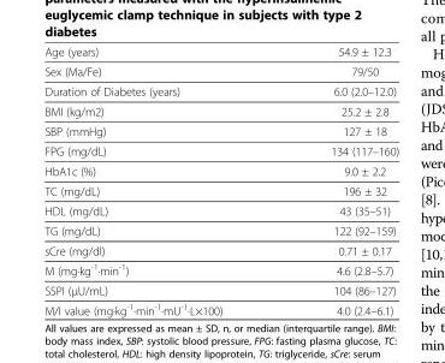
<table><thead><tr><td>Age (years)</td><td>54.9 ± 12.3</td></tr></thead><tbody><tr><td>Sex (Ma/Fe)</td><td>79/50</td></tr><tr><td>Duration of Diabetes (years)</td><td>6.0 (2.0–12.0)</td></tr><tr><td>BMI (kg/m2)</td><td>25.2 ± 2.8</td></tr><tr><td>SBP (mmHg)</td><td>127 ± 18</td></tr><tr><td>FPG (mg/dL)</td><td>134 (117–160)</td></tr><tr><td>HbA1c (%)</td><td>9.0 ± 2.2</td></tr><tr><td>TC (mg/dL)</td><td>196 ± 32</td></tr><tr><td>HDL (mg/dL)</td><td>43 (35–51)</td></tr><tr><td>TG (mg/dL)</td><td>122 (92–159)</td></tr><tr><td>sCre (mg/dl)</td><td>0.71 ± 0.17</td></tr><tr><td>M (mg·kg<sup>-1</sup>·min<sup>-1</sup>)</td><td>4.6 (2.8–5.7)</td></tr><tr><td>SSPI (μU/mL)</td><td>104 (86–127)</td></tr><tr><td>M/I value (mg·kg<sup>-1</sup>·min<sup>-1</sup>·mU<sup>-1</sup>·L×100)</td><td>4.0 (2.4–6.1)</td></tr></tbody></table>